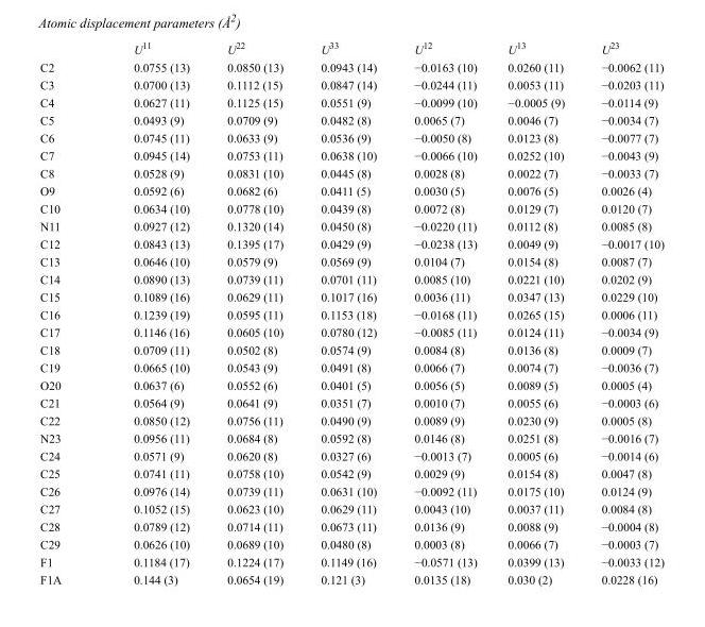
<table><thead><tr><td></td><td>U<sup>11</sup></td><td>U<sup>22</sup></td><td>U<sup>33</sup></td><td>U<sup>12</sup></td><td>U<sup>13</sup></td><td>U<sup>23</sup></td></tr></thead><tbody><tr><td>C2</td><td>0.0755 (13)</td><td>0.0850 (13)</td><td>0.0943 (14)</td><td>−0.0163 (10)</td><td>0.0260 (11)</td><td>−0.0062 (11)</td></tr><tr><td>C3</td><td>0.0700 (13)</td><td>0.1112 (15)</td><td>0.0847 (14)</td><td>−0.0244 (11)</td><td>0.0053 (11)</td><td>−0.0203 (11)</td></tr><tr><td>C4</td><td>0.0627 (11)</td><td>0.1125 (15)</td><td>0.0551 (9)</td><td>−0.0099 (10)</td><td>−0.0005 (9)</td><td>−0.0114 (9)</td></tr><tr><td>C5</td><td>0.0493 (9)</td><td>0.0709 (9)</td><td>0.0482 (8)</td><td>0.0065 (7)</td><td>0.0046 (7)</td><td>−0.0034 (7)</td></tr><tr><td>C6</td><td>0.0745 (11)</td><td>0.0633 (9)</td><td>0.0536 (9)</td><td>−0.0050 (8)</td><td>0.0123 (8)</td><td>−0.0077 (7)</td></tr><tr><td>C7</td><td>0.0945 (14)</td><td>0.0753 (11)</td><td>0.0638 (10)</td><td>−0.0066 (10)</td><td>0.0252 (10)</td><td>−0.0043 (9)</td></tr><tr><td>C8</td><td>0.0528 (9)</td><td>0.0831 (10)</td><td>0.0445 (8)</td><td>0.0028 (8)</td><td>0.0022 (7)</td><td>−0.0033 (7)</td></tr><tr><td>O9</td><td>0.0592 (6)</td><td>0.0682 (6)</td><td>0.0411 (5)</td><td>0.0030 (5)</td><td>0.0076 (5)</td><td>0.0026 (4)</td></tr><tr><td>C10</td><td>0.0634 (10)</td><td>0.0778 (10)</td><td>0.0439 (8)</td><td>0.0072 (8)</td><td>0.0129 (7)</td><td>0.0120 (7)</td></tr><tr><td>N11</td><td>0.0927 (12)</td><td>0.1320 (14)</td><td>0.0450 (8)</td><td>−0.0220 (11)</td><td>0.0112 (8)</td><td>0.0085 (8)</td></tr><tr><td>C12</td><td>0.0843 (13)</td><td>0.1395 (17)</td><td>0.0429 (9)</td><td>−0.0238 (13)</td><td>0.0049 (9)</td><td>−0.0017 (10)</td></tr><tr><td>C13</td><td>0.0646 (10)</td><td>0.0579 (9)</td><td>0.0569 (9)</td><td>0.0104 (7)</td><td>0.0154 (8)</td><td>0.0087 (7)</td></tr><tr><td>C14</td><td>0.0890 (13)</td><td>0.0739 (11)</td><td>0.0701 (11)</td><td>0.0085 (10)</td><td>0.0221 (10)</td><td>0.0202 (9)</td></tr><tr><td>C15</td><td>0.1089 (16)</td><td>0.0629 (11)</td><td>0.1017 (16)</td><td>0.0036 (11)</td><td>0.0347 (13)</td><td>0.0229 (10)</td></tr><tr><td>C16</td><td>0.1239 (19)</td><td>0.0595 (11)</td><td>0.1153 (18)</td><td>−0.0168 (11)</td><td>0.0265 (15)</td><td>0.0006 (11)</td></tr><tr><td>C17</td><td>0.1146 (16)</td><td>0.0605 (10)</td><td>0.0780 (12)</td><td>−0.0085 (11)</td><td>0.0124 (11)</td><td>−0.0034 (9)</td></tr><tr><td>C18</td><td>0.0709 (11)</td><td>0.0502 (8)</td><td>0.0574 (9)</td><td>0.0084 (8)</td><td>0.0136 (8)</td><td>0.0009 (7)</td></tr><tr><td>C19</td><td>0.0665 (10)</td><td>0.0543 (9)</td><td>0.0491 (8)</td><td>0.0066 (7)</td><td>0.0074 (7)</td><td>−0.0036 (7)</td></tr><tr><td>O20</td><td>0.0637 (6)</td><td>0.0552 (6)</td><td>0.0401 (5)</td><td>0.0056 (5)</td><td>0.0089 (5)</td><td>0.0005 (4)</td></tr><tr><td>C21</td><td>0.0564 (9)</td><td>0.0641 (9)</td><td>0.0351 (7)</td><td>0.0010 (7)</td><td>0.0055 (6)</td><td>−0.0003 (6)</td></tr><tr><td>C22</td><td>0.0850 (12)</td><td>0.0756 (11)</td><td>0.0490 (9)</td><td>0.0089 (9)</td><td>0.0230 (9)</td><td>0.0005 (8)</td></tr><tr><td>N23</td><td>0.0956 (11)</td><td>0.0684 (8)</td><td>0.0592 (8)</td><td>0.0146 (8)</td><td>0.0251 (8)</td><td>−0.0016 (7)</td></tr><tr><td>C24</td><td>0.0571 (9)</td><td>0.0620 (8)</td><td>0.0327 (6)</td><td>−0.0013 (7)</td><td>0.0005 (6)</td><td>−0.0014 (6)</td></tr><tr><td>C25</td><td>0.0741 (11)</td><td>0.0758 (10)</td><td>0.0542 (9)</td><td>0.0029 (9)</td><td>0.0154 (8)</td><td>0.0047 (8)</td></tr><tr><td>C26</td><td>0.0976 (14)</td><td>0.0739 (11)</td><td>0.0631 (10)</td><td>−0.0092 (11)</td><td>0.0175 (10)</td><td>0.0124 (9)</td></tr><tr><td>C27</td><td>0.1052 (15)</td><td>0.0623 (10)</td><td>0.0629 (11)</td><td>0.0043 (10)</td><td>0.0037 (11)</td><td>0.0084 (8)</td></tr><tr><td>C28</td><td>0.0789 (12)</td><td>0.0714 (11)</td><td>0.0673 (11)</td><td>0.0136 (9)</td><td>0.0088 (9)</td><td>−0.0004 (8)</td></tr><tr><td>C29</td><td>0.0626 (10)</td><td>0.0689 (10)</td><td>0.0480 (8)</td><td>0.0003 (8)</td><td>0.0066 (7)</td><td>−0.0003 (7)</td></tr><tr><td>F1</td><td>0.1184 (17)</td><td>0.1224 (17)</td><td>0.1149 (16)</td><td>−0.0571 (13)</td><td>0.0399 (13)</td><td>−0.0033 (12)</td></tr><tr><td>F1A</td><td>0.144 (3)</td><td>0.0654 (19)</td><td>0.121 (3)</td><td>0.0135 (18)</td><td>0.030 (2)</td><td>0.0228 (16)</td></tr></tbody></table>